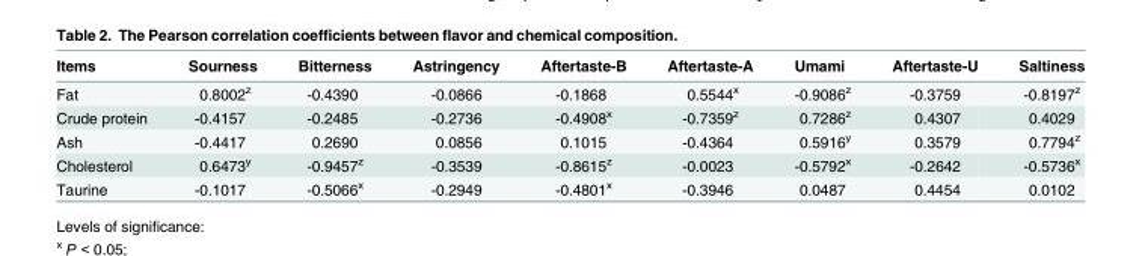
<table><thead><tr><td>Items</td><td>Sourness</td><td>Bitterness</td><td>Astringency</td><td>Aftertaste-B</td><td>Aftertaste-A</td><td>Umami</td><td>Aftertaste-U</td><td>Saltiness</td></tr></thead><tbody><tr><td>Fat</td><td>0.8002<sup>z</sup></td><td>-0.4390</td><td>-0.0866</td><td>-0.1868</td><td>0.5544<sup>x</sup></td><td>-0.9086<sup>z</sup></td><td>-0.3759</td><td>-0.8197<sup>z</sup></td></tr><tr><td>Crude protein</td><td>-0.4157</td><td>-0.2485</td><td>-0.2736</td><td>-0.4908<sup>x</sup></td><td>-0.7359<sup>z</sup></td><td>0.7286<sup>z</sup></td><td>0.4307</td><td>0.4029</td></tr><tr><td>Ash</td><td>-0.4417</td><td>0.2690</td><td>0.0856</td><td>0.1015</td><td>-0.4364</td><td>0.5916<sup>y</sup></td><td>0.3579</td><td>0.7794<sup>z</sup></td></tr><tr><td>Cholesterol</td><td>0.6473<sup>y</sup></td><td>-0.9457<sup>z</sup></td><td>-0.3539</td><td>-0.8615<sup>z</sup></td><td>-0.0023</td><td>-0.5792<sup>x</sup></td><td>-0.2642</td><td>-0.5736<sup>x</sup></td></tr><tr><td>Taurine</td><td>-0.1017</td><td>-0.5066<sup>x</sup></td><td>-0.2949</td><td>-0.4801<sup>x</sup></td><td>-0.3946</td><td>0.0487</td><td>0.4454</td><td>0.0102</td></tr></tbody></table>